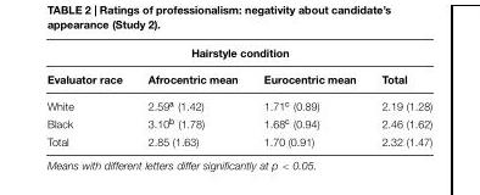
<table><thead><tr><td colspan="4">Hairstyle condition</td></tr><tr><td>Evaluator race</td><td>Afrocentric mean</td><td>Eurocentric mean</td><td>Total</td></tr></thead><tbody><tr><td>White</td><td>2.59<sup>a</sup> (1.42)</td><td>1.71<sup>c</sup> (0.89)</td><td>2.19 (1.28)</td></tr><tr><td>Black</td><td>3.10<sup>b</sup> (1.78)</td><td>1.68<sup>c</sup> (0.94)</td><td>2.46 (1.62)</td></tr><tr><td>Total</td><td>2.85 (1.63)</td><td>1.70 (0.91)</td><td>2.32 (1.47)</td></tr></tbody></table>